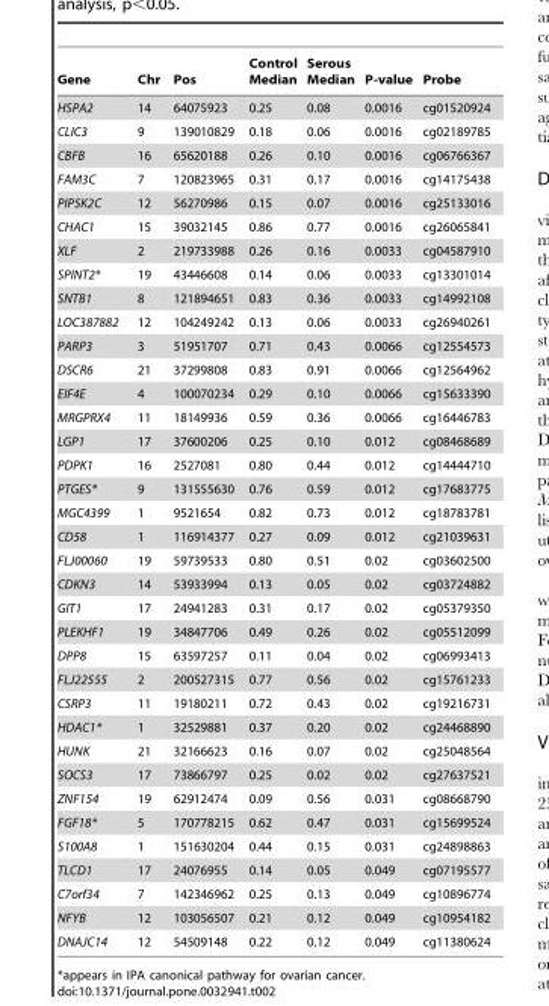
<table><thead><tr><td>Gene</td><td>Chr</td><td>Pos</td><td>Control Median</td><td>Serous Median</td><td>P-value</td><td>Probe</td></tr></thead><tbody><tr><td>HSPA2</td><td>14</td><td>64075923</td><td>0.25</td><td>0.08</td><td>0.0016</td><td>cg01520924</td></tr><tr><td>CLIC3</td><td>9</td><td>139010829</td><td>0.18</td><td>0.06</td><td>0.0016</td><td>cg02189785</td></tr><tr><td>CBFB</td><td>16</td><td>65620188</td><td>0.26</td><td>0.10</td><td>0.0016</td><td>cg06766367</td></tr><tr><td>FAM3C</td><td>7</td><td>120823965</td><td>0.31</td><td>0.17</td><td>0.0016</td><td>cg14175438</td></tr><tr><td>PIP5K2C</td><td>12</td><td>56270986</td><td>0.15</td><td>0.07</td><td>0.0016</td><td>cg25133016</td></tr><tr><td>CHAC1</td><td>15</td><td>39032145</td><td>0.86</td><td>0.77</td><td>0.0016</td><td>cg26065841</td></tr><tr><td>XLF</td><td>2</td><td>219733988</td><td>0.26</td><td>0.16</td><td>0.0033</td><td>cg04587910</td></tr><tr><td>SPINT2*</td><td>19</td><td>43446608</td><td>0.14</td><td>0.06</td><td>0.0033</td><td>cg13301014</td></tr><tr><td>SNTB1</td><td>8</td><td>121894651</td><td>0.83</td><td>0.36</td><td>0.0033</td><td>cg14992108</td></tr><tr><td>LOC387882</td><td>12</td><td>104249242</td><td>0.13</td><td>0.06</td><td>0.0033</td><td>cg26940261</td></tr><tr><td>PARP3</td><td>3</td><td>51951707</td><td>0.71</td><td>0.43</td><td>0.0066</td><td>cg12554573</td></tr><tr><td>DSCR6</td><td>21</td><td>37299808</td><td>0.83</td><td>0.91</td><td>0.0066</td><td>cg12564962</td></tr><tr><td>EIF4E</td><td>4</td><td>100070234</td><td>0.29</td><td>0.10</td><td>0.0066</td><td>cg15633390</td></tr><tr><td>MRGPRX4</td><td>11</td><td>18149936</td><td>0.59</td><td>0.36</td><td>0.0066</td><td>cg16446783</td></tr><tr><td>LGP1</td><td>17</td><td>37600206</td><td>0.25</td><td>0.10</td><td>0.012</td><td>cg08468689</td></tr><tr><td>PDPK1</td><td>16</td><td>2527081</td><td>0.80</td><td>0.44</td><td>0.012</td><td>cg14444710</td></tr><tr><td>PTGES*</td><td>9</td><td>131555630</td><td>0.76</td><td>0.59</td><td>0.012</td><td>cg17683775</td></tr><tr><td>MGC4399</td><td>1</td><td>9521654</td><td>0.82</td><td>0.73</td><td>0.012</td><td>cg18783781</td></tr><tr><td>CD58</td><td>1</td><td>116914377</td><td>0.27</td><td>0.09</td><td>0.012</td><td>cg21039631</td></tr><tr><td>FLJ00060</td><td>19</td><td>59739533</td><td>0.80</td><td>0.51</td><td>0.02</td><td>cg03602500</td></tr><tr><td>CDKN3</td><td>14</td><td>53933994</td><td>0.13</td><td>0.05</td><td>0.02</td><td>cg03724882</td></tr><tr><td>GIT1</td><td>17</td><td>24941283</td><td>0.31</td><td>0.17</td><td>0.02</td><td>cg05379350</td></tr><tr><td>PLEKHF1</td><td>19</td><td>34847706</td><td>0.49</td><td>0.26</td><td>0.02</td><td>cg05512099</td></tr><tr><td>DPP8</td><td>15</td><td>63597257</td><td>0.11</td><td>0.04</td><td>0.02</td><td>cg06993413</td></tr><tr><td>FLJ22555</td><td>2</td><td>200527315</td><td>0.77</td><td>0.56</td><td>0.02</td><td>cg15761233</td></tr><tr><td>CSRP3</td><td>11</td><td>19180211</td><td>0.72</td><td>0.43</td><td>0.02</td><td>cg19216731</td></tr><tr><td>HDAC1*</td><td>1</td><td>32529881</td><td>0.37</td><td>0.20</td><td>0.02</td><td>cg24468890</td></tr><tr><td>HUNK</td><td>21</td><td>32166623</td><td>0.16</td><td>0.07</td><td>0.02</td><td>cg25048564</td></tr><tr><td>SOCS3</td><td>17</td><td>73866797</td><td>0.25</td><td>0.02</td><td>0.02</td><td>cg27637521</td></tr><tr><td>ZNF154</td><td>19</td><td>62912474</td><td>0.09</td><td>0.56</td><td>0.031</td><td>cg08668790</td></tr><tr><td>FGF18*</td><td>5</td><td>170778215</td><td>0.62</td><td>0.47</td><td>0.031</td><td>cg15699524</td></tr><tr><td>S100A8</td><td>1</td><td>151630204</td><td>0.44</td><td>0.15</td><td>0.031</td><td>cg24898863</td></tr><tr><td>TLCD1</td><td>17</td><td>24076955</td><td>0.14</td><td>0.05</td><td>0.049</td><td>cg07195577</td></tr><tr><td>C7orf34</td><td>7</td><td>142346962</td><td>0.25</td><td>0.13</td><td>0.049</td><td>cg10896774</td></tr><tr><td>NFYB</td><td>12</td><td>103056507</td><td>0.21</td><td>0.12</td><td>0.049</td><td>cg10954182</td></tr><tr><td>DNAJC14</td><td>12</td><td>54509148</td><td>0.22</td><td>0.12</td><td>0.049</td><td>cg11380624</td></tr></tbody></table>